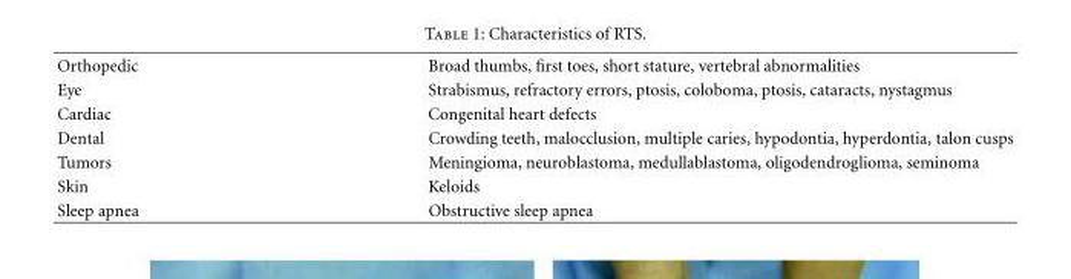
<table><tbody><tr><td>Orthopedic</td><td>Broad thumbs, first toes, short stature, vertebral abnormalities</td></tr><tr><td>Eye</td><td>Strabismus, refractory errors, ptosis, coloboma, ptosis, cataracts, nystagmus</td></tr><tr><td>Cardiac</td><td>Congenital heart defects</td></tr><tr><td>Dental</td><td>Crowding teeth, malocclusion, multiple caries, hypodontia, hyperdontia, talon cusps</td></tr><tr><td>Tumors</td><td>Meningioma, neuroblastoma, medullablastoma, oligodendroglioma, seminoma</td></tr><tr><td>Skin</td><td>Keloids</td></tr><tr><td>Sleep apnea</td><td>Obstructive sleep apnea</td></tr></tbody></table>